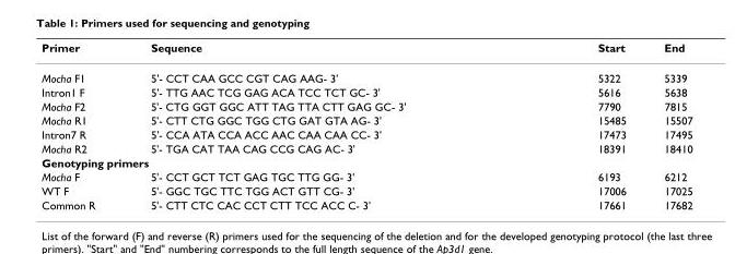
<table><thead><tr><td>Primer</td><td>Sequence</td><td>Start</td><td>End</td></tr></thead><tbody><tr><td>Mocha F1</td><td>5&#x27;- CCT CAA GCC CGT CAG AAG- 3&#x27;</td><td>5322</td><td>5339</td></tr><tr><td>Intron1 F</td><td>5&#x27;- TTG AAC TCG GAG ACA TCC TCT GC- 3&#x27;</td><td>5616</td><td>5638</td></tr><tr><td>Mocha F2</td><td>5&#x27;- CTG GGT GGC ATT TAG TTA CTT GAG GC- 3&#x27;</td><td>7790</td><td>7815</td></tr><tr><td>Mocha R1</td><td>5&#x27;- CTT CTG GGC TGG CTG GAT GTA AG- 3&#x27;</td><td>15485</td><td>15507</td></tr><tr><td>Intron7 R</td><td>5&#x27;- CCA ATA CCA ACC AAC CAA CAA CC- 3&#x27;</td><td>17473</td><td>17495</td></tr><tr><td>Mocha R2</td><td>5&#x27;- TGA CAT TAA CAG CCG CAG AC- 3&#x27;</td><td>18391</td><td>18410</td></tr><tr><td colspan="4">Genotyping primers</td></tr><tr><td>Mocha F</td><td>5&#x27;- CCT GCT TCT GAG TGC TTG GG- 3&#x27;</td><td>6193</td><td>6212</td></tr><tr><td>WT F</td><td>5&#x27;- GGC TGC TTC TGG ACT GTT CG- 3&#x27;</td><td>17006</td><td>17025</td></tr><tr><td>Common R</td><td>5&#x27;- CTT CTC CAC CCT CTT TCC ACC C- 3&#x27;</td><td>17661</td><td>17682</td></tr></tbody></table>